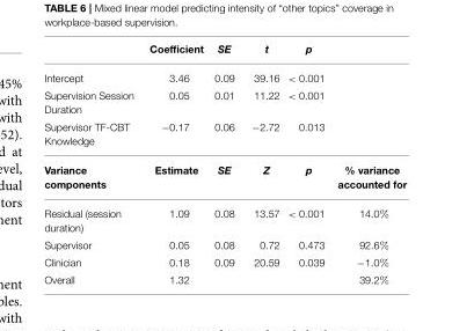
<table><thead><tr><td></td><td>Coefficient</td><td>SE</td><td>t</td><td>p</td><td></td></tr></thead><tbody><tr><td>Intercept</td><td>3.46</td><td>0.09</td><td>39.16</td><td>&lt; 0.001</td><td></td></tr><tr><td>Supervision Session Duration</td><td>0.05</td><td>0.01</td><td>11.22</td><td>&lt; 0.001</td><td></td></tr><tr><td>Supervisor TF-CBT Knowledge</td><td>−0.17</td><td>0.06</td><td>−2.72</td><td>0.013</td><td></td></tr><tr><td>Variance components</td><td>Estimate</td><td>SE</td><td>Z</td><td>p</td><td>% variance accounted for</td></tr><tr><td>Residual (session duration)</td><td>1.09</td><td>0.08</td><td>13.57</td><td>&lt; 0.001</td><td>14.0%</td></tr><tr><td>Supervisor</td><td>0.05</td><td>0.08</td><td>0.72</td><td>0.473</td><td>92.6%</td></tr><tr><td>Clinician</td><td>0.18</td><td>0.09</td><td>20.59</td><td>0.039</td><td>−1.0%</td></tr><tr><td>Overall</td><td>1.32</td><td></td><td></td><td></td><td>39.2%</td></tr></tbody></table>